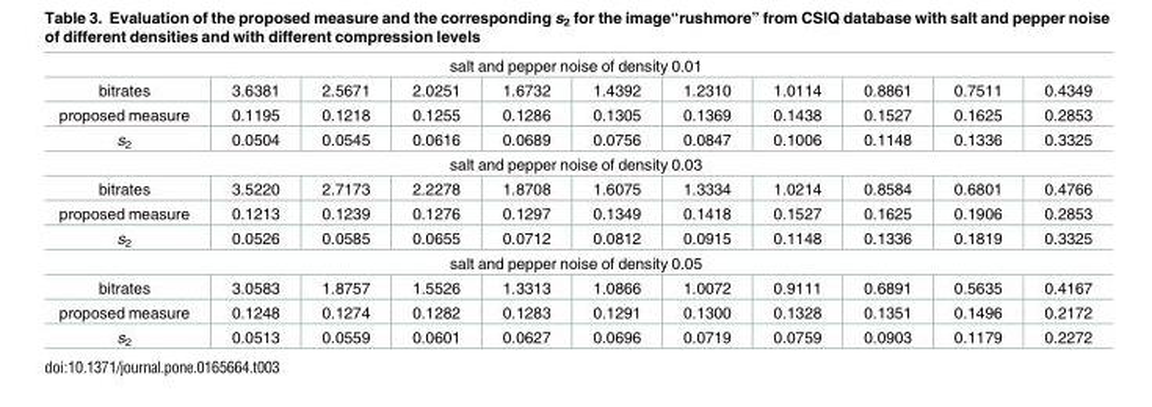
<table><tbody><tr><td colspan="11">salt and pepper noise of density 0.01</td></tr><tr><td>bitrates</td><td>3.6381</td><td>2.5671</td><td>2.0251</td><td>1.6732</td><td>1.4392</td><td>1.2310</td><td>1.0114</td><td>0.8861</td><td>0.7511</td><td>0.4349</td></tr><tr><td>proposed measure</td><td>0.1195</td><td>0.1218</td><td>0.1255</td><td>0.1286</td><td>0.1305</td><td>0.1369</td><td>0.1438</td><td>0.1527</td><td>0.1625</td><td>0.2853</td></tr><tr><td>s<sub>2</sub></td><td>0.0504</td><td>0.0545</td><td>0.0616</td><td>0.0689</td><td>0.0756</td><td>0.0847</td><td>0.1006</td><td>0.1148</td><td>0.1336</td><td>0.3325</td></tr><tr><td colspan="11">salt and pepper noise of density 0.03</td></tr><tr><td>bitrates</td><td>3.5220</td><td>2.7173</td><td>2.2278</td><td>1.8708</td><td>1.6075</td><td>1.3334</td><td>1.0214</td><td>0.8584</td><td>0.6801</td><td>0.4766</td></tr><tr><td>proposed measure</td><td>0.1213</td><td>0.1239</td><td>0.1276</td><td>0.1297</td><td>0.1349</td><td>0.1418</td><td>0.1527</td><td>0.1625</td><td>0.1906</td><td>0.2853</td></tr><tr><td>s<sub>2</sub></td><td>0.0526</td><td>0.0585</td><td>0.0655</td><td>0.0712</td><td>0.0812</td><td>0.0915</td><td>0.1148</td><td>0.1336</td><td>0.1819</td><td>0.3325</td></tr><tr><td colspan="11">salt and pepper noise of density 0.05</td></tr><tr><td>bitrates</td><td>3.0583</td><td>1.8757</td><td>1.5526</td><td>1.3313</td><td>1.0866</td><td>1.0072</td><td>0.9111</td><td>0.6891</td><td>0.5635</td><td>0.4167</td></tr><tr><td>proposed measure</td><td>0.1248</td><td>0.1274</td><td>0.1282</td><td>0.1283</td><td>0.1291</td><td>0.1300</td><td>0.1328</td><td>0.1351</td><td>0.1496</td><td>0.2172</td></tr><tr><td>s<sub>2</sub></td><td>0.0513</td><td>0.0559</td><td>0.0601</td><td>0.0627</td><td>0.0696</td><td>0.0719</td><td>0.0759</td><td>0.0903</td><td>0.1179</td><td>0.2272</td></tr></tbody></table>